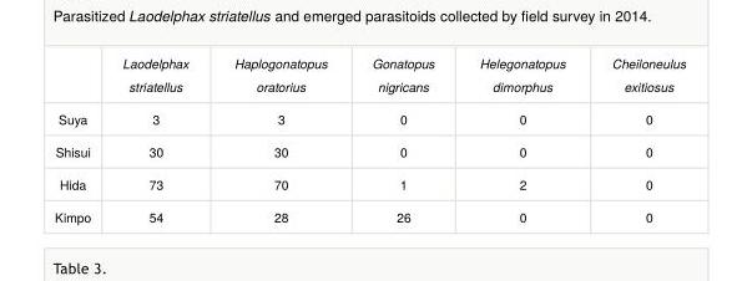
<table><thead><tr><td></td><td>Laodelphax striatellus</td><td>Haplogonatopus oratorius</td><td>Gonatopus nigricans</td><td>Helegonatopus dimorphus</td><td>Cheiloneulus exitiosus</td></tr></thead><tbody><tr><td>Suya</td><td>3</td><td>3</td><td>0</td><td>0</td><td>0</td></tr><tr><td>Shisui</td><td>30</td><td>30</td><td>0</td><td>0</td><td>0</td></tr><tr><td>Hida</td><td>73</td><td>70</td><td>1</td><td>2</td><td>0</td></tr><tr><td>Kimpo</td><td>54</td><td>28</td><td>26</td><td>0</td><td>0</td></tr></tbody></table>